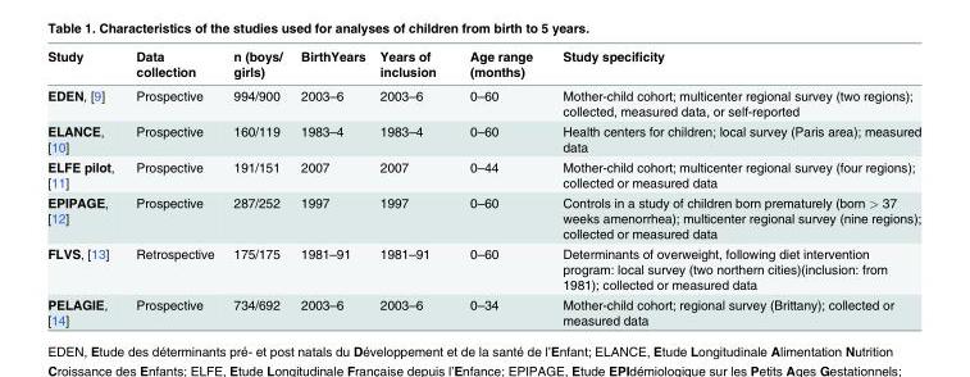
<table><thead><tr><td>Study</td><td>Data collection</td><td>n (boys/ girls)</td><td>BirthYears</td><td>Years of inclusion</td><td>Age range (months)</td><td>Study specificity</td></tr></thead><tbody><tr><td>EDEN, [9]</td><td>Prospective</td><td>994/900</td><td>2003–6</td><td>2003–6</td><td>0–60</td><td>Mother-child cohort; multicenter regional survey (two regions); collected, measured data, or self-reported</td></tr><tr><td>ELANCE, [10]</td><td>Prospective</td><td>160/119</td><td>1983–4</td><td>1983–4</td><td>0–60</td><td>Health centers for children; local survey (Paris area); measured data</td></tr><tr><td>ELFE pilot, [11]</td><td>Prospective</td><td>191/151</td><td>2007</td><td>2007</td><td>0–44</td><td>Mother-child cohort; multicenter regional survey (four regions); collected or measured data</td></tr><tr><td>EPIPAGE, [12]</td><td>Prospective</td><td>287/252</td><td>1997</td><td>1997</td><td>0–60</td><td>Controls in a study of children born prematurely (born &gt; 37 weeks amenorrhea); multicenter regional survey (nine regions); collected or measured data</td></tr><tr><td>FLVS, [13]</td><td>Retrospective</td><td>175/175</td><td>1981–91</td><td>1981–91</td><td>0–60</td><td>Determinants of overweight, following diet intervention program: local survey (two northern cities)(inclusion: from 1981); collected or measured data</td></tr><tr><td>PELAGIE, [14]</td><td>Prospective</td><td>734/692</td><td>2003–6</td><td>2003–6</td><td>0–34</td><td>Mother-child cohort; regional survey (Brittany); collected or measured data</td></tr></tbody></table>